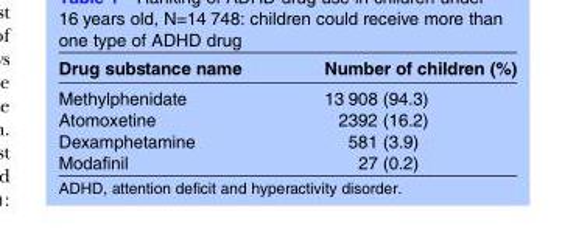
<table><thead><tr><td>Drug substance name</td><td>Number of children (%)</td></tr></thead><tbody><tr><td>Methylphenidate</td><td>13 908 (94.3)</td></tr><tr><td>Atomoxetine</td><td>2392 (16.2)</td></tr><tr><td>Dexamphetamine</td><td>581 (3.9)</td></tr><tr><td>Modafinil</td><td>27 (0.2)</td></tr></tbody></table>